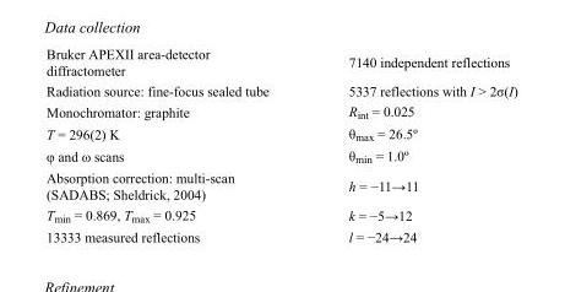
<table><tbody><tr><td>Bruker APEXII area-detector diffractometer</td><td>7140 independent reflections</td></tr><tr><td>Radiation source: fine-focus sealed tube</td><td>5337 reflections with I &gt; 2σ(I)</td></tr><tr><td>Monochromator: graphite</td><td>R<sub>int</sub> = 0.025</td></tr><tr><td>T = 296(2) K</td><td>θ<sub>max</sub> = 26.5º</td></tr><tr><td>φ and ω scans</td><td>θ<sub>min</sub> = 1.0º</td></tr><tr><td>Absorption correction: multi-scan (SADABS; Sheldrick, 2004)</td><td>h = −11→11</td></tr><tr><td>T<sub>min</sub> = 0.869, T<sub>max</sub> = 0.925</td><td>k = −5→12</td></tr><tr><td>13333 measured reflections</td><td>l = −24→24</td></tr></tbody></table>